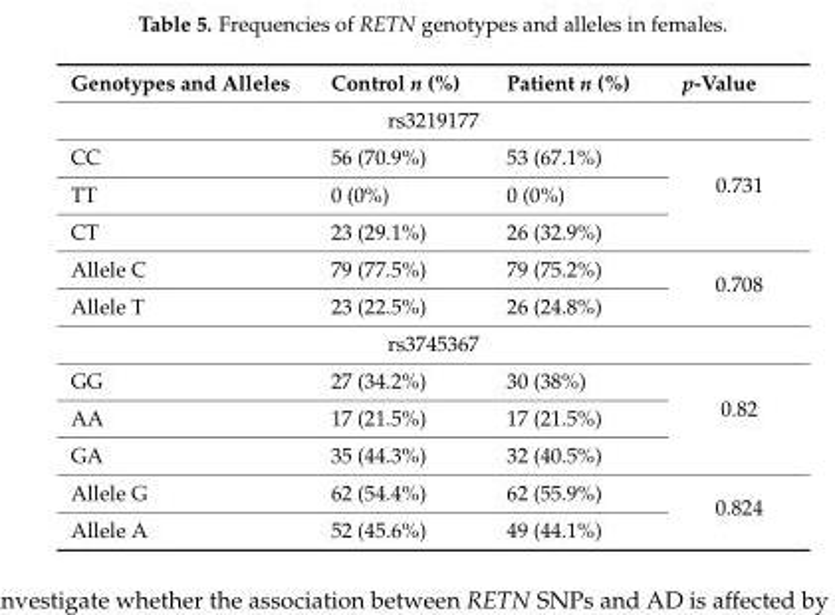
<table><thead><tr><td>Genotypes and Alleles</td><td>Control n (%)</td><td>Patient n (%)</td><td>p-Value</td></tr></thead><tbody><tr><td colspan="4">rs3219177</td></tr><tr><td>CC</td><td>56 (70.9%)</td><td>53 (67.1%)</td><td rowspan="3">0.731</td></tr><tr><td>TT</td><td>0 (0%)</td><td>0 (0%)</td></tr><tr><td>CT</td><td>23 (29.1%)</td><td>26 (32.9%)</td></tr><tr><td>Allele C</td><td>79 (77.5%)</td><td>79 (75.2%)</td><td rowspan="2">0.708</td></tr><tr><td>Allele T</td><td>23 (22.5%)</td><td>26 (24.8%)</td></tr><tr><td colspan="4">rs3745367</td></tr><tr><td>GG</td><td>27 (34.2%)</td><td>30 (38%)</td><td rowspan="3">0.82</td></tr><tr><td>AA</td><td>17 (21.5%)</td><td>17 (21.5%)</td></tr><tr><td>GA</td><td>35 (44.3%)</td><td>32 (40.5%)</td></tr><tr><td>Allele G</td><td>62 (54.4%)</td><td>62 (55.9%)</td><td rowspan="2">0.824</td></tr><tr><td>Allele A</td><td>52 (45.6%)</td><td>49 (44.1%)</td></tr></tbody></table>